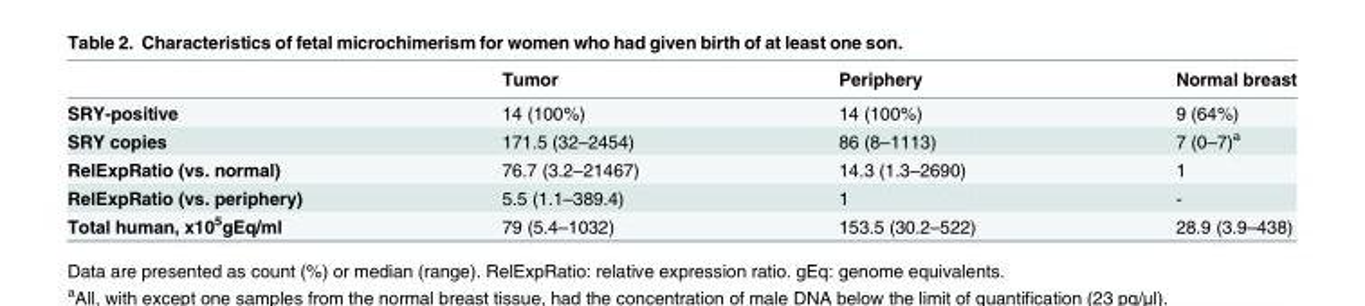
<table><thead><tr><td></td><td>Tumor</td><td>Periphery</td><td>Normal breast</td></tr></thead><tbody><tr><td>SRY-positive</td><td>14 (100%)</td><td>14 (100%)</td><td>9 (64%)</td></tr><tr><td>SRY copies</td><td>171.5 (32–2454)</td><td>86 (8–1113)</td><td>7 (0–7)<sup>a</sup></td></tr><tr><td>RelExpRatio (vs. normal)</td><td>76.7 (3.2–21467)</td><td>14.3 (1.3–2690)</td><td>1</td></tr><tr><td>RelExpRatio (vs. periphery)</td><td>5.5 (1.1–389.4)</td><td>1</td><td>-</td></tr><tr><td>Total human, x10<sup>5</sup>gEq/ml</td><td>79 (5.4–1032)</td><td>153.5 (30.2–522)</td><td>28.9 (3.9–438)</td></tr></tbody></table>